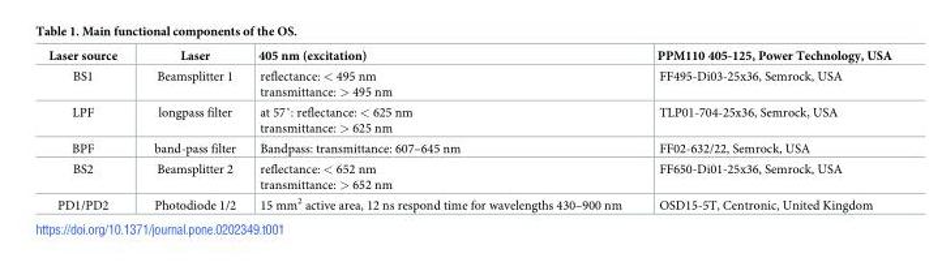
<table><thead><tr><td>Laser source</td><td>Laser</td><td>405 nm (excitation)</td><td>PPM110 405-125, Power Technology, USA</td></tr></thead><tbody><tr><td>BS1</td><td>Beamsplitter 1</td><td>reflectance: &lt; 495 nm transmittance: &gt; 495 nm</td><td>FF495-Di03-25x36, Semrock, USA</td></tr><tr><td>LPF</td><td>longpass filter</td><td>at 57˚: reflectance: &lt; 625 nm transmittance: &gt; 625 nm</td><td>TLP01-704-25x36, Semrock, USA</td></tr><tr><td>BPF</td><td>band-pass filter</td><td>Bandpass: transmittance: 607–645 nm</td><td>FF02-632/22, Semrock, USA</td></tr><tr><td>BS2</td><td>Beamsplitter 2</td><td>reflectance: &lt; 652 nm transmittance: &gt; 652 nm</td><td>FF650-Di01-25x36, Semrock, USA</td></tr><tr><td>PD1/PD2</td><td>Photodiode 1/2</td><td>15 mm<sup>2</sup> active area, 12 ns respond time for wavelengths 430–900 nm</td><td>OSD15-5T, Centronic, United Kingdom</td></tr></tbody></table>